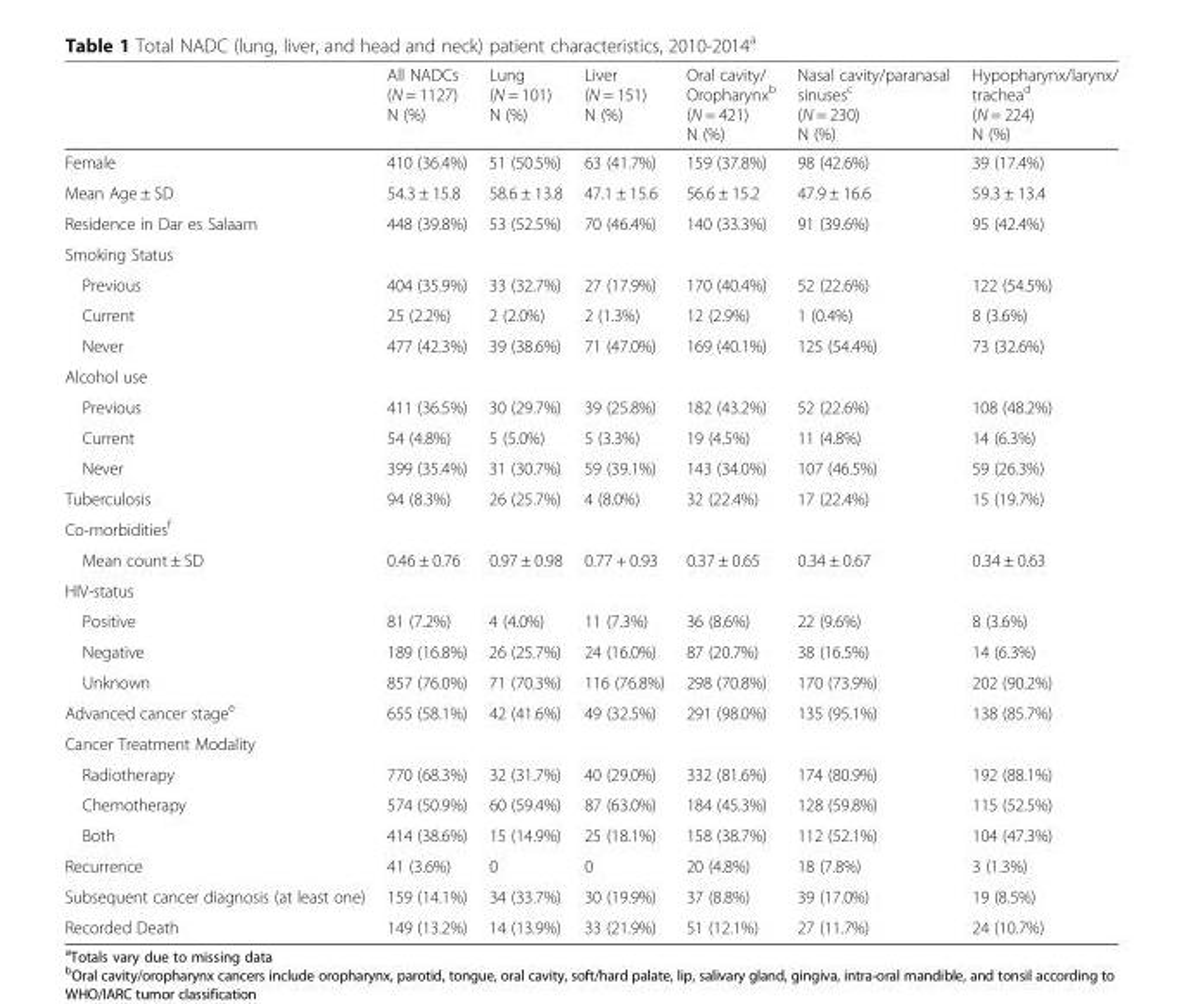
<table><thead><tr><td></td><td>All NADCs (N = 1127) N (%)</td><td>Lung (N = 101) N (%)</td><td>Liver (N = 151) N (%)</td><td>Oral cavity/ Oropharynx<sup>b</sup> (N = 421) N (%)</td><td>Nasal cavity/paranasal sinuses<sup>c</sup> (N = 230) N (%)</td><td>Hypopharynx/larynx/ trachea<sup>d</sup> (N = 224) N (%)</td></tr></thead><tbody><tr><td>Female</td><td>410 (36.4%)</td><td>51 (50.5%)</td><td>63 (41.7%)</td><td>159 (37.8%)</td><td>98 (42.6%)</td><td>39 (17.4%)</td></tr><tr><td>Mean Age ± SD</td><td>54.3 ± 15.8</td><td>58.6 ± 13.8</td><td>47.1 ± 15.6</td><td>56.6 ± 15.2</td><td>47.9 ± 16.6</td><td>59.3 ± 13.4</td></tr><tr><td>Residence in Dar es Salaam</td><td>448 (39.8%)</td><td>53 (52.5%)</td><td>70 (46.4%)</td><td>140 (33.3%)</td><td>91 (39.6%)</td><td>95 (42.4%)</td></tr><tr><td colspan="7">Smoking Status</td></tr><tr><td>Previous</td><td>404 (35.9%)</td><td>33 (32.7%)</td><td>27 (17.9%)</td><td>170 (40.4%)</td><td>52 (22.6%)</td><td>122 (54.5%)</td></tr><tr><td>Current</td><td>25 (2.2%)</td><td>2 (2.0%)</td><td>2 (1.3%)</td><td>12 (2.9%)</td><td>1 (0.4%)</td><td>8 (3.6%)</td></tr><tr><td>Never</td><td>477 (42.3%)</td><td>39 (38.6%)</td><td>71 (47.0%)</td><td>169 (40.1%)</td><td>125 (54.4%)</td><td>73 (32.6%)</td></tr><tr><td colspan="7">Alcohol use</td></tr><tr><td>Previous</td><td>411 (36.5%)</td><td>30 (29.7%)</td><td>39 (25.8%)</td><td>182 (43.2%)</td><td>52 (22.6%)</td><td>108 (48.2%)</td></tr><tr><td>Current</td><td>54 (4.8%)</td><td>5 (5.0%)</td><td>5 (3.3%)</td><td>19 (4.5%)</td><td>11 (4.8%)</td><td>14 (6.3%)</td></tr><tr><td>Never</td><td>399 (35.4%)</td><td>31 (30.7%)</td><td>59 (39.1%)</td><td>143 (34.0%)</td><td>107 (46.5%)</td><td>59 (26.3%)</td></tr><tr><td>Tuberculosis</td><td>94 (8.3%)</td><td>26 (25.7%)</td><td>4 (8.0%)</td><td>32 (22.4%)</td><td>17 (22.4%)</td><td>15 (19.7%)</td></tr><tr><td colspan="7">Co-morbidities<sup>f</sup></td></tr><tr><td>Mean count ± SD</td><td>0.46 ± 0.76</td><td>0.97 ± 0.98</td><td>0.77 + 0.93</td><td>0.37 ± 0.65</td><td>0.34 ± 0.67</td><td>0.34 ± 0.63</td></tr><tr><td colspan="7">HIV-status</td></tr><tr><td>Positive</td><td>81 (7.2%)</td><td>4 (4.0%)</td><td>11 (7.3%)</td><td>36 (8.6%)</td><td>22 (9.6%)</td><td>8 (3.6%)</td></tr><tr><td>Negative</td><td>189 (16.8%)</td><td>26 (25.7%)</td><td>24 (16.0%)</td><td>87 (20.7%)</td><td>38 (16.5%)</td><td>14 (6.3%)</td></tr><tr><td>Unknown</td><td>857 (76.0%)</td><td>71 (70.3%)</td><td>116 (76.8%)</td><td>298 (70.8%)</td><td>170 (73.9%)</td><td>202 (90.2%)</td></tr><tr><td>Advanced cancer stage<sup>e</sup></td><td>655 (58.1%)</td><td>42 (41.6%)</td><td>49 (32.5%)</td><td>291 (98.0%)</td><td>135 (95.1%)</td><td>138 (85.7%)</td></tr><tr><td colspan="7">Cancer Treatment Modality</td></tr><tr><td>Radiotherapy</td><td>770 (68.3%)</td><td>32 (31.7%)</td><td>40 (29.0%)</td><td>332 (81.6%)</td><td>174 (80.9%)</td><td>192 (88.1%)</td></tr><tr><td>Chemotherapy</td><td>574 (50.9%)</td><td>60 (59.4%)</td><td>87 (63.0%)</td><td>184 (45.3%)</td><td>128 (59.8%)</td><td>115 (52.5%)</td></tr><tr><td>Both</td><td>414 (38.6%)</td><td>15 (14.9%)</td><td>25 (18.1%)</td><td>158 (38.7%)</td><td>112 (52.1%)</td><td>104 (47.3%)</td></tr><tr><td>Recurrence</td><td>41 (3.6%)</td><td>0</td><td>0</td><td>20 (4.8%)</td><td>18 (7.8%)</td><td>3 (1.3%)</td></tr><tr><td>Subsequent cancer diagnosis (at least one)</td><td>159 (14.1%)</td><td>34 (33.7%)</td><td>30 (19.9%)</td><td>37 (8.8%)</td><td>39 (17.0%)</td><td>19 (8.5%)</td></tr><tr><td>Recorded Death</td><td>149 (13.2%)</td><td>14 (13.9%)</td><td>33 (21.9%)</td><td>51 (12.1%)</td><td>27 (11.7%)</td><td>24 (10.7%)</td></tr></tbody></table>